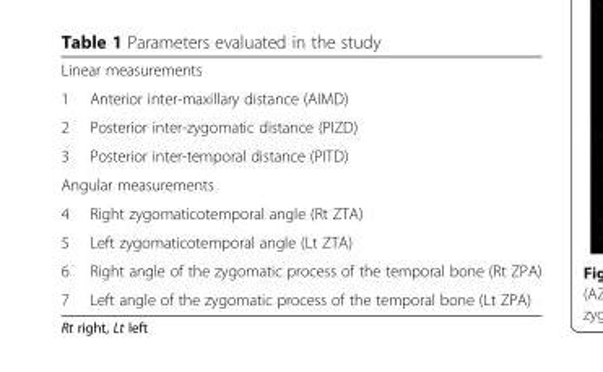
<table><tbody><tr><td colspan="2">Linear measurements</td></tr><tr><td>1</td><td>Anterior inter-maxillary distance (AIMD)</td></tr><tr><td>2</td><td>Posterior inter-zygomatic distance (PIZD)</td></tr><tr><td>3</td><td>Posterior inter-temporal distance (PITD)</td></tr><tr><td colspan="2">Angular measurements</td></tr><tr><td>4</td><td>Right zygomaticotemporal angle (Rt ZTA)</td></tr><tr><td>5</td><td>Left zygomaticotemporal angle (Lt ZTA)</td></tr><tr><td>6</td><td>Right angle of the zygomatic process of the temporal bone (Rt ZPA)</td></tr><tr><td>7</td><td>Left angle of the zygomatic process of the temporal bone (Lt ZPA)</td></tr></tbody></table>